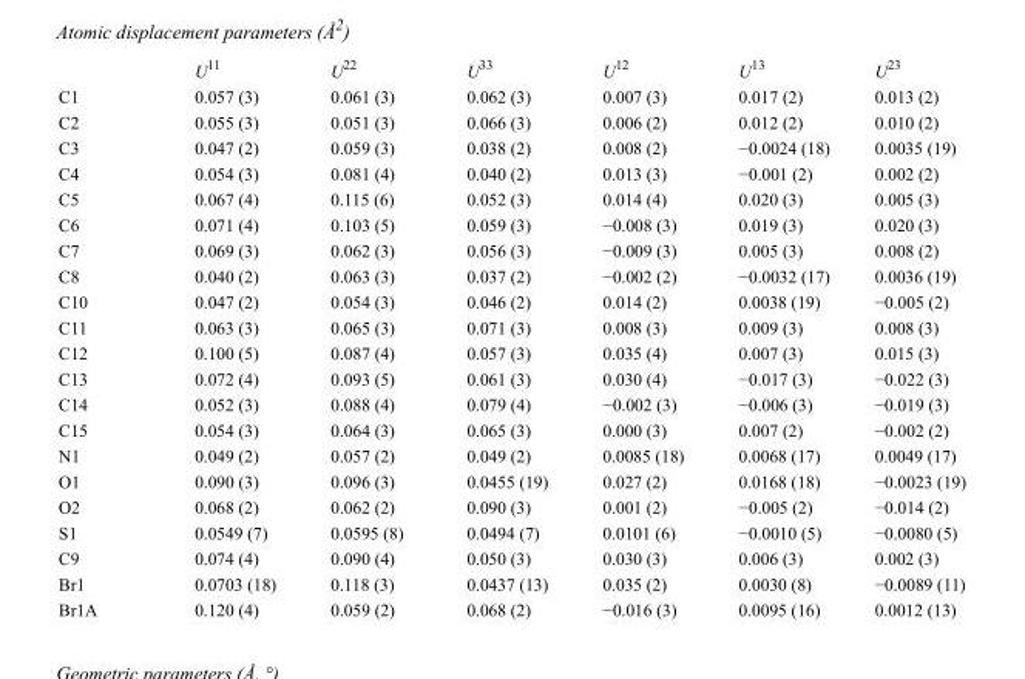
<table><thead><tr><td></td><td>U<sup>11</sup></td><td>U<sup>22</sup></td><td>U<sup>33</sup></td><td>U<sup>12</sup></td><td>U<sup>13</sup></td><td>U<sup>23</sup></td></tr></thead><tbody><tr><td>C1</td><td>0.057 (3)</td><td>0.061 (3)</td><td>0.062 (3)</td><td>0.007 (3)</td><td>0.017 (2)</td><td>0.013 (2)</td></tr><tr><td>C2</td><td>0.055 (3)</td><td>0.051 (3)</td><td>0.066 (3)</td><td>0.006 (2)</td><td>0.012 (2)</td><td>0.010 (2)</td></tr><tr><td>C3</td><td>0.047 (2)</td><td>0.059 (3)</td><td>0.038 (2)</td><td>0.008 (2)</td><td>−0.0024 (18)</td><td>0.0035 (19)</td></tr><tr><td>C4</td><td>0.054 (3)</td><td>0.081 (4)</td><td>0.040 (2)</td><td>0.013 (3)</td><td>−0.001 (2)</td><td>0.002 (2)</td></tr><tr><td>C5</td><td>0.067 (4)</td><td>0.115 (6)</td><td>0.052 (3)</td><td>0.014 (4)</td><td>0.020 (3)</td><td>0.005 (3)</td></tr><tr><td>C6</td><td>0.071 (4)</td><td>0.103 (5)</td><td>0.059 (3)</td><td>−0.008 (3)</td><td>0.019 (3)</td><td>0.020 (3)</td></tr><tr><td>C7</td><td>0.069 (3)</td><td>0.062 (3)</td><td>0.056 (3)</td><td>−0.009 (3)</td><td>0.005 (3)</td><td>0.008 (2)</td></tr><tr><td>C8</td><td>0.040 (2)</td><td>0.063 (3)</td><td>0.037 (2)</td><td>−0.002 (2)</td><td>−0.0032 (17)</td><td>0.0036 (19)</td></tr><tr><td>C10</td><td>0.047 (2)</td><td>0.054 (3)</td><td>0.046 (2)</td><td>0.014 (2)</td><td>0.0038 (19)</td><td>−0.005 (2)</td></tr><tr><td>C11</td><td>0.063 (3)</td><td>0.065 (3)</td><td>0.071 (3)</td><td>0.008 (3)</td><td>0.009 (3)</td><td>0.008 (3)</td></tr><tr><td>C12</td><td>0.100 (5)</td><td>0.087 (4)</td><td>0.057 (3)</td><td>0.035 (4)</td><td>0.007 (3)</td><td>0.015 (3)</td></tr><tr><td>C13</td><td>0.072 (4)</td><td>0.093 (5)</td><td>0.061 (3)</td><td>0.030 (4)</td><td>−0.017 (3)</td><td>−0.022 (3)</td></tr><tr><td>C14</td><td>0.052 (3)</td><td>0.088 (4)</td><td>0.079 (4)</td><td>−0.002 (3)</td><td>−0.006 (3)</td><td>−0.019 (3)</td></tr><tr><td>C15</td><td>0.054 (3)</td><td>0.064 (3)</td><td>0.065 (3)</td><td>0.000 (3)</td><td>0.007 (2)</td><td>−0.002 (2)</td></tr><tr><td>N1</td><td>0.049 (2)</td><td>0.057 (2)</td><td>0.049 (2)</td><td>0.0085 (18)</td><td>0.0068 (17)</td><td>0.0049 (17)</td></tr><tr><td>O1</td><td>0.090 (3)</td><td>0.096 (3)</td><td>0.0455 (19)</td><td>0.027 (2)</td><td>0.0168 (18)</td><td>−0.0023 (19)</td></tr><tr><td>O2</td><td>0.068 (2)</td><td>0.062 (2)</td><td>0.090 (3)</td><td>0.001 (2)</td><td>−0.005 (2)</td><td>−0.014 (2)</td></tr><tr><td>S1</td><td>0.0549 (7)</td><td>0.0595 (8)</td><td>0.0494 (7)</td><td>0.0101 (6)</td><td>−0.0010 (5)</td><td>−0.0080 (5)</td></tr><tr><td>C9</td><td>0.074 (4)</td><td>0.090 (4)</td><td>0.050 (3)</td><td>0.030 (3)</td><td>0.006 (3)</td><td>0.002 (3)</td></tr><tr><td>Br1</td><td>0.0703 (18)</td><td>0.118 (3)</td><td>0.0437 (13)</td><td>0.035 (2)</td><td>0.0030 (8)</td><td>−0.0089 (11)</td></tr><tr><td>Br1A</td><td>0.120 (4)</td><td>0.059 (2)</td><td>0.068 (2)</td><td>−0.016 (3)</td><td>0.0095 (16)</td><td>0.0012 (13)</td></tr></tbody></table>